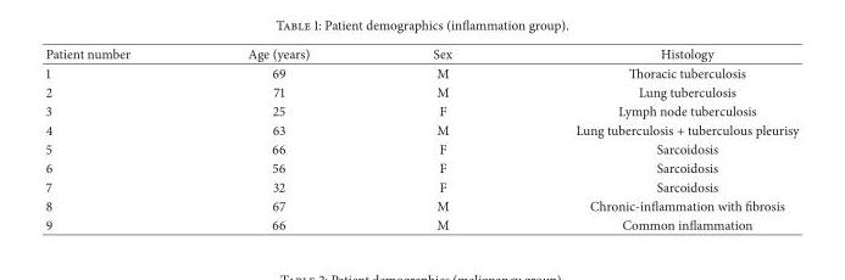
<table><thead><tr><td>Patient number</td><td>Age (years)</td><td>Sex</td><td>Histology</td></tr></thead><tbody><tr><td>1</td><td>69</td><td>M</td><td>Thoracic tuberculosis</td></tr><tr><td>2</td><td>71</td><td>M</td><td>Lung tuberculosis</td></tr><tr><td>3</td><td>25</td><td>F</td><td>Lymph node tuberculosis</td></tr><tr><td>4</td><td>63</td><td>M</td><td>Lung tuberculosis + tuberculous pleurisy</td></tr><tr><td>5</td><td>66</td><td>F</td><td>Sarcoidosis</td></tr><tr><td>6</td><td>56</td><td>F</td><td>Sarcoidosis</td></tr><tr><td>7</td><td>32</td><td>F</td><td>Sarcoidosis</td></tr><tr><td>8</td><td>67</td><td>M</td><td>Chronic-inflammation with fibrosis</td></tr><tr><td>9</td><td>66</td><td>M</td><td>Common inflammation</td></tr></tbody></table>